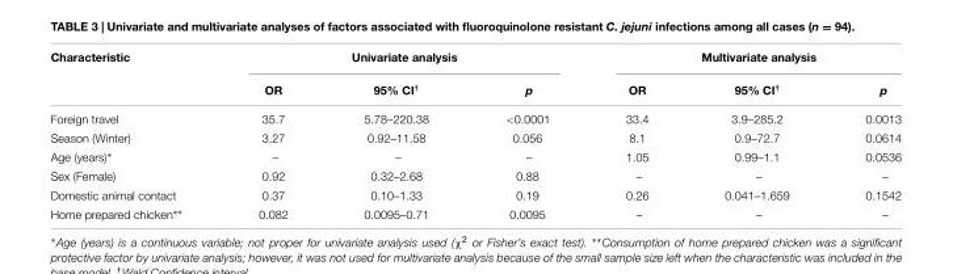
<table><thead><tr><td rowspan="2">Characteristic</td><td colspan="3">Univariate analysis</td><td colspan="3">Multivariate analysis</td></tr><tr><td>OR</td><td>95% CI<sup>†</sup></td><td>p</td><td>OR</td><td>95% CI<sup>†</sup></td><td>p</td></tr></thead><tbody><tr><td>Foreign travel</td><td>35.7</td><td>5.78–220.38</td><td>&lt;0.0001</td><td>33.4</td><td>3.9–285.2</td><td>0.0013</td></tr><tr><td>Season (Winter)</td><td>3.27</td><td>0.92–11.58</td><td>0.056</td><td>8.1</td><td>0.9–72.7</td><td>0.0614</td></tr><tr><td>Age (years)∗</td><td>–</td><td>–</td><td>–</td><td>1.05</td><td>0.99–1.1</td><td>0.0536</td></tr><tr><td>Sex (Female)</td><td>0.92</td><td>0.32–2.68</td><td>0.88</td><td>–</td><td>–</td><td>–</td></tr><tr><td>Domestic animal contact</td><td>0.37</td><td>0.10–1.33</td><td>0.19</td><td>0.26</td><td>0.041–1.659</td><td>0.1542</td></tr><tr><td>Home prepared chicken∗∗</td><td>0.082</td><td>0.0095–0.71</td><td>0.0095</td><td>–</td><td>–</td><td>–</td></tr></tbody></table>